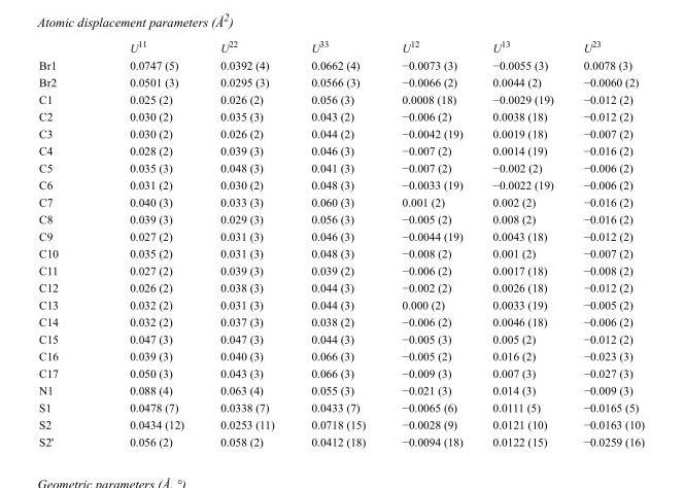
<table><thead><tr><td></td><td>U<sup>11</sup></td><td>U<sup>22</sup></td><td>U<sup>33</sup></td><td>U<sup>12</sup></td><td>U<sup>13</sup></td><td>U<sup>23</sup></td></tr></thead><tbody><tr><td>Br1</td><td>0.0747 (5)</td><td>0.0392 (4)</td><td>0.0662 (4)</td><td>−0.0073 (3)</td><td>−0.0055 (3)</td><td>0.0078 (3)</td></tr><tr><td>Br2</td><td>0.0501 (3)</td><td>0.0295 (3)</td><td>0.0566 (3)</td><td>−0.0066 (2)</td><td>0.0044 (2)</td><td>−0.0060 (2)</td></tr><tr><td>C1</td><td>0.025 (2)</td><td>0.026 (2)</td><td>0.056 (3)</td><td>0.0008 (18)</td><td>−0.0029 (19)</td><td>−0.012 (2)</td></tr><tr><td>C2</td><td>0.030 (2)</td><td>0.035 (3)</td><td>0.043 (2)</td><td>−0.006 (2)</td><td>0.0038 (18)</td><td>−0.012 (2)</td></tr><tr><td>C3</td><td>0.030 (2)</td><td>0.026 (2)</td><td>0.044 (2)</td><td>−0.0042 (19)</td><td>0.0019 (18)</td><td>−0.007 (2)</td></tr><tr><td>C4</td><td>0.028 (2)</td><td>0.039 (3)</td><td>0.046 (3)</td><td>−0.007 (2)</td><td>0.0014 (19)</td><td>−0.016 (2)</td></tr><tr><td>C5</td><td>0.035 (3)</td><td>0.048 (3)</td><td>0.041 (3)</td><td>−0.007 (2)</td><td>−0.002 (2)</td><td>−0.006 (2)</td></tr><tr><td>C6</td><td>0.031 (2)</td><td>0.030 (2)</td><td>0.048 (3)</td><td>−0.0033 (19)</td><td>−0.0022 (19)</td><td>−0.006 (2)</td></tr><tr><td>C7</td><td>0.040 (3)</td><td>0.033 (3)</td><td>0.060 (3)</td><td>0.001 (2)</td><td>0.002 (2)</td><td>−0.016 (2)</td></tr><tr><td>C8</td><td>0.039 (3)</td><td>0.029 (3)</td><td>0.056 (3)</td><td>−0.005 (2)</td><td>0.008 (2)</td><td>−0.016 (2)</td></tr><tr><td>C9</td><td>0.027 (2)</td><td>0.031 (3)</td><td>0.046 (3)</td><td>−0.0044 (19)</td><td>0.0043 (18)</td><td>−0.012 (2)</td></tr><tr><td>C10</td><td>0.035 (2)</td><td>0.031 (3)</td><td>0.048 (3)</td><td>−0.008 (2)</td><td>0.001 (2)</td><td>−0.007 (2)</td></tr><tr><td>C11</td><td>0.027 (2)</td><td>0.039 (3)</td><td>0.039 (2)</td><td>−0.006 (2)</td><td>0.0017 (18)</td><td>−0.008 (2)</td></tr><tr><td>C12</td><td>0.026 (2)</td><td>0.038 (3)</td><td>0.044 (3)</td><td>−0.002 (2)</td><td>0.0026 (18)</td><td>−0.012 (2)</td></tr><tr><td>C13</td><td>0.032 (2)</td><td>0.031 (3)</td><td>0.044 (3)</td><td>0.000 (2)</td><td>0.0033 (19)</td><td>−0.005 (2)</td></tr><tr><td>C14</td><td>0.032 (2)</td><td>0.037 (3)</td><td>0.038 (2)</td><td>−0.006 (2)</td><td>0.0046 (18)</td><td>−0.006 (2)</td></tr><tr><td>C15</td><td>0.047 (3)</td><td>0.047 (3)</td><td>0.044 (3)</td><td>−0.005 (3)</td><td>0.005 (2)</td><td>−0.012 (2)</td></tr><tr><td>C16</td><td>0.039 (3)</td><td>0.040 (3)</td><td>0.066 (3)</td><td>−0.005 (2)</td><td>0.016 (2)</td><td>−0.023 (3)</td></tr><tr><td>C17</td><td>0.050 (3)</td><td>0.043 (3)</td><td>0.066 (3)</td><td>−0.009 (3)</td><td>0.007 (3)</td><td>−0.027 (3)</td></tr><tr><td>N1</td><td>0.088 (4)</td><td>0.063 (4)</td><td>0.055 (3)</td><td>−0.021 (3)</td><td>0.014 (3)</td><td>−0.009 (3)</td></tr><tr><td>S1</td><td>0.0478 (7)</td><td>0.0338 (7)</td><td>0.0433 (7)</td><td>−0.0065 (6)</td><td>0.0111 (5)</td><td>−0.0165 (5)</td></tr><tr><td>S2</td><td>0.0434 (12)</td><td>0.0253 (11)</td><td>0.0718 (15)</td><td>−0.0028 (9)</td><td>0.0121 (10)</td><td>−0.0163 (10)</td></tr><tr><td>S2&#x27;</td><td>0.056 (2)</td><td>0.058 (2)</td><td>0.0412 (18)</td><td>−0.0094 (18)</td><td>0.0122 (15)</td><td>−0.0259 (16)</td></tr></tbody></table>